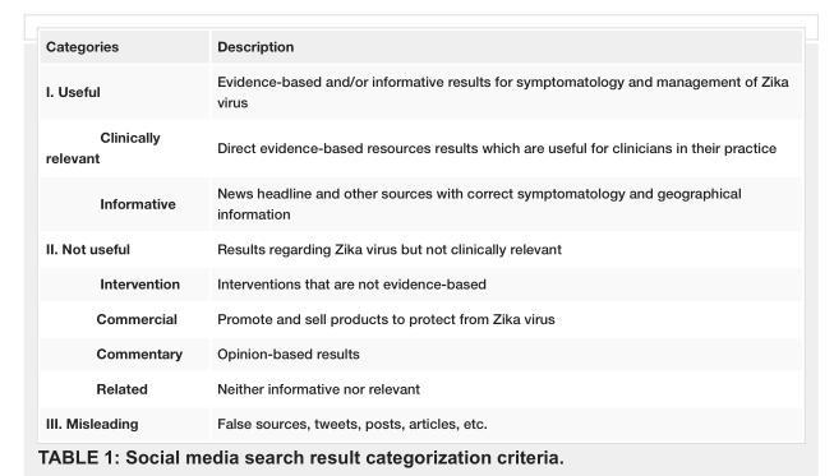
<table><tbody><tr><td>Categories</td><td>Description</td></tr><tr><td>I. Useful</td><td>Evidence-based and/or informative results for symptomatology and management of Zika virus</td></tr><tr><td>Clinically relevant</td><td>Direct evidence-based resources results which are useful for clinicians in their practice</td></tr><tr><td>Informative</td><td>News headline and other sources with correct symptomatology and geographical information</td></tr><tr><td>II. Not useful</td><td>Results regarding Zika virus but not clinically relevant</td></tr><tr><td>Intervention</td><td>Interventions that are not evidence-based</td></tr><tr><td>Commercial</td><td>Promote and sell products to protect from Zika virus</td></tr><tr><td>Commentary</td><td>Opinion-based results</td></tr><tr><td>Related</td><td>Neither informative nor relevant</td></tr><tr><td>III. Misleading</td><td>False sources, tweets, posts, articles, etc.</td></tr></tbody></table>